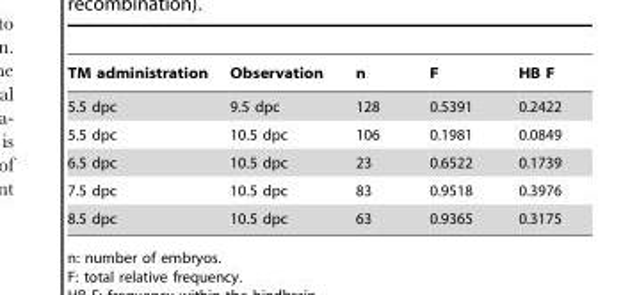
<table><thead><tr><td>TM administration</td><td>Observation</td><td>n</td><td>F</td><td>HB F</td></tr></thead><tbody><tr><td>5.5 dpc</td><td>9.5 dpc</td><td>128</td><td>0.5391</td><td>0.2422</td></tr><tr><td>5.5 dpc</td><td>10.5 dpc</td><td>106</td><td>0.1981</td><td>0.0849</td></tr><tr><td>6.5 dpc</td><td>10.5 dpc</td><td>23</td><td>0.6522</td><td>0.1739</td></tr><tr><td>7.5 dpc</td><td>10.5 dpc</td><td>83</td><td>0.9518</td><td>0.3976</td></tr><tr><td>8.5 dpc</td><td>10.5 dpc</td><td>63</td><td>0.9365</td><td>0.3175</td></tr></tbody></table>